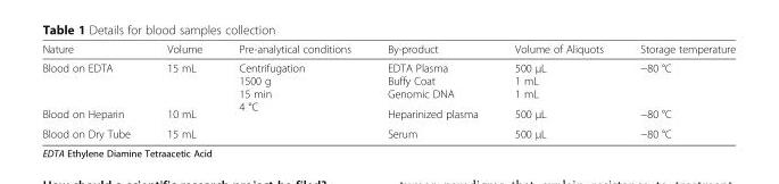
<table><thead><tr><td>Nature</td><td>Volume</td><td>Pre-analytical conditions</td><td>By-product</td><td>Volume of Aliquots</td><td>Storage temperature</td></tr></thead><tbody><tr><td>Blood on EDTA</td><td>15 mL</td><td rowspan="3">Centrifugation 1500 g 15 min 4 °C</td><td>EDTA Plasma Buffy Coat Genomic DNA</td><td>500 μL 1 mL 1 mL</td><td>−80 °C</td></tr><tr><td>Blood on Heparin</td><td>10 mL</td><td>Heparinized plasma</td><td>500 μL</td><td>−80 °C</td></tr><tr><td>Blood on Dry Tube</td><td>15 mL</td><td>Serum</td><td>500 μL</td><td>−80 °C</td></tr></tbody></table>